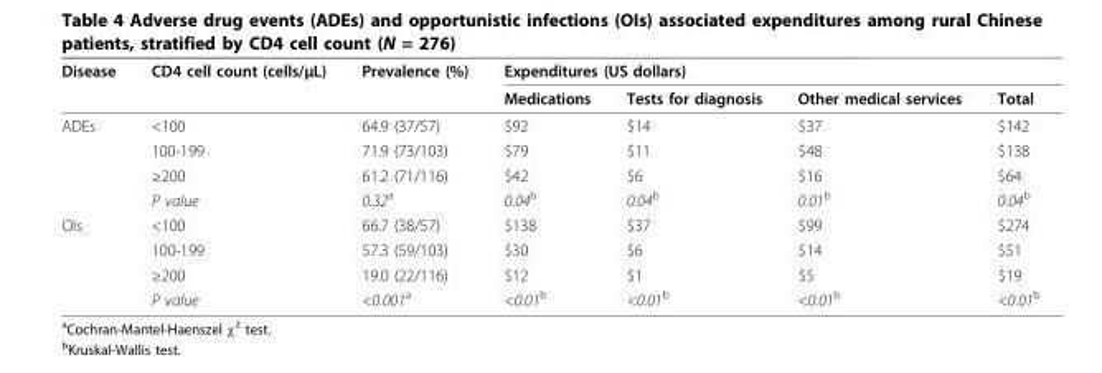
<table><thead><tr><td rowspan="2">Disease</td><td rowspan="2">CD4 cell count (cells/μL)</td><td rowspan="2">Prevalence (%)</td><td colspan="4">Expenditures (US dollars)</td></tr><tr><td>Medications</td><td>Tests for diagnosis</td><td>Other medical services</td><td>Total</td></tr></thead><tbody><tr><td rowspan="4">ADEs</td><td>&lt;100</td><td>64.9 (37/57)</td><td>$92</td><td>$14</td><td>$37</td><td>$142</td></tr><tr><td>100-199</td><td>71.9 (73/103)</td><td>$79</td><td>$11</td><td>$48</td><td>$138</td></tr><tr><td>≥200</td><td>61.2 (71/116)</td><td>$42</td><td>$6</td><td>$16</td><td>$64</td></tr><tr><td>P value</td><td>0.32<sup>a</sup></td><td>0.04<sup>b</sup></td><td>0.04<sup>b</sup></td><td>0.01<sup>b</sup></td><td>0.04<sup>b</sup></td></tr><tr><td rowspan="4">OIs</td><td>&lt;100</td><td>66.7 (38/57)</td><td>$138</td><td>$37</td><td>$99</td><td>$274</td></tr><tr><td>100-199</td><td>57.3 (59/103)</td><td>$30</td><td>$6</td><td>$14</td><td>$51</td></tr><tr><td>≥200</td><td>19.0 (22/116)</td><td>$12</td><td>$1</td><td>$5</td><td>$19</td></tr><tr><td>P value</td><td>&lt;0.001<sup>a</sup></td><td>&lt;0.01<sup>b</sup></td><td>&lt;0.01<sup>b</sup></td><td>&lt;0.01<sup>b</sup></td><td>&lt;0.01<sup>b</sup></td></tr></tbody></table>